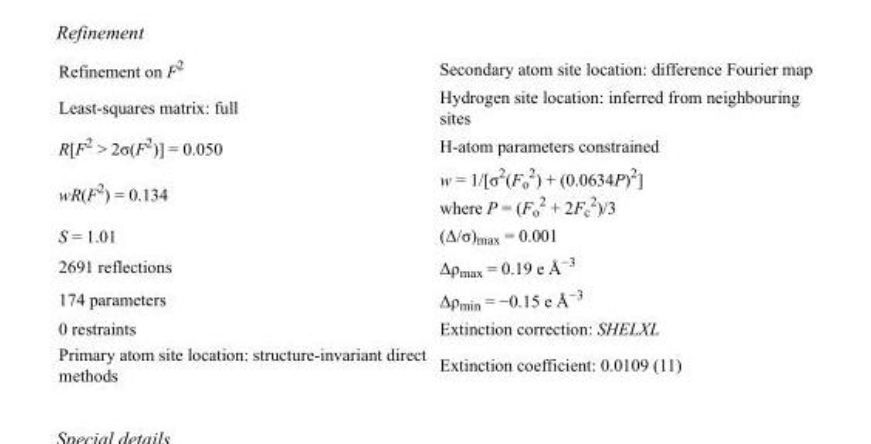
<table><tbody><tr><td>Refinement on F<sup>2</sup></td><td>Secondary atom site location: difference Fourier map</td></tr><tr><td>Least-squares matrix: full</td><td>Hydrogen site location: inferred from neighbouring sites</td></tr><tr><td>R[F<sup>2</sup> &gt; 2σ(F<sup>2</sup>)] = 0.050</td><td>H-atom parameters constrained</td></tr><tr><td>wR(F<sup>2</sup>) = 0.134</td><td>w = 1/[σ<sup>2</sup>(F<sub>o</sub> <sup>2</sup>) + (0.0634P)<sup>2</sup>] where P = (F<sub>o</sub> <sup>2</sup> + 2F<sub>c</sub> <sup>2</sup>)/3</td></tr><tr><td>S = 1.01</td><td>(Δ/σ)<sub>max</sub> = 0.001</td></tr><tr><td>2691 reflections</td><td>Δρ<sub>max</sub> = 0.19 e Å<sup>−3</sup></td></tr><tr><td>174 parameters</td><td>Δρ<sub>min</sub> = −0.15 e Å<sup>−3</sup></td></tr><tr><td>0 restraints</td><td>Extinction correction: SHELXL</td></tr><tr><td>Primary atom site location: structure-invariant direct methods</td><td>Extinction coefficient: 0.0109 (11)</td></tr></tbody></table>